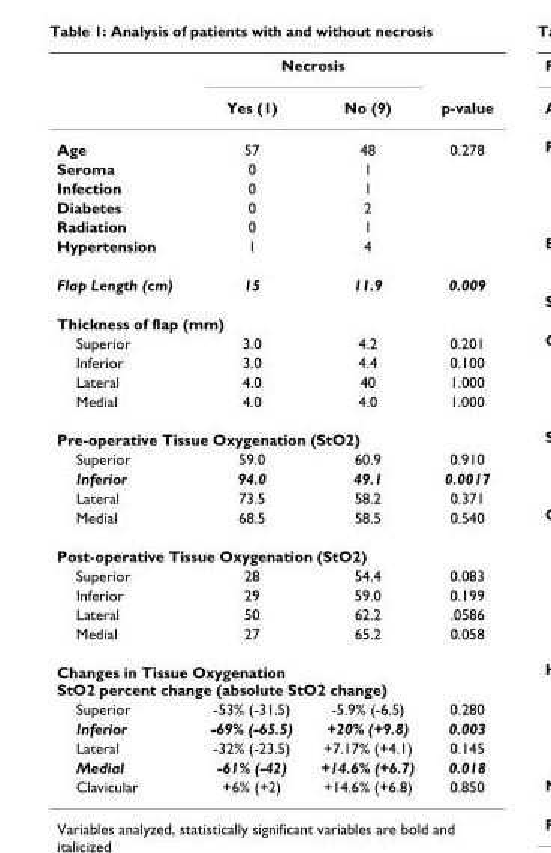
<table><thead><tr><td rowspan="2"></td><td colspan="2">Necrosis</td><td rowspan="2">p-value</td></tr><tr><td>Yes (1)</td><td>No (9)</td></tr></thead><tbody><tr><td>Age</td><td>57</td><td>48</td><td>0.278</td></tr><tr><td>Seroma</td><td>0</td><td>1</td><td></td></tr><tr><td>Infection</td><td>0</td><td>1</td><td></td></tr><tr><td>Diabetes</td><td>0</td><td>2</td><td></td></tr><tr><td>Radiation</td><td>0</td><td>1</td><td></td></tr><tr><td>Hypertension</td><td>1</td><td>4</td><td></td></tr><tr><td>Flap Length (cm)</td><td>15</td><td>11.9</td><td>0.009</td></tr><tr><td colspan="4">Thickness of flap (mm)</td></tr><tr><td>Superior</td><td>3.0</td><td>4.2</td><td>0.201</td></tr><tr><td>Inferior</td><td>3.0</td><td>4.4</td><td>0.100</td></tr><tr><td>Lateral</td><td>4.0</td><td>40</td><td>1.000</td></tr><tr><td>Medial</td><td>4.0</td><td>4.0</td><td>1.000</td></tr><tr><td colspan="4">Pre-operative Tissue Oxygenation (StO2)</td></tr><tr><td>Superior</td><td>59.0</td><td>60.9</td><td>0.910</td></tr><tr><td>Inferior</td><td>94.0</td><td>49.1</td><td>0.0017</td></tr><tr><td>Lateral</td><td>73.5</td><td>58.2</td><td>0.371</td></tr><tr><td>Medial</td><td>68.5</td><td>58.5</td><td>0.540</td></tr><tr><td colspan="4">Post-operative Tissue Oxygenation (StO2)</td></tr><tr><td>Superior</td><td>28</td><td>54.4</td><td>0.083</td></tr><tr><td>Inferior</td><td>29</td><td>59.0</td><td>0.199</td></tr><tr><td>Lateral</td><td>50</td><td>62.2</td><td>.0586</td></tr><tr><td>Medial</td><td>27</td><td>65.2</td><td>0.058</td></tr><tr><td colspan="4">Changes in Tissue Oxygenation StO2 percent change (absolute StO2 change)</td></tr><tr><td>Superior</td><td>-53% (-31.5)</td><td>-5.9% (-6.5)</td><td>0.280</td></tr><tr><td>Inferior</td><td>-69% (-65.5)</td><td>+20% (+9.8)</td><td>0.003</td></tr><tr><td>Lateral</td><td>-32% (-23.5)</td><td>+7.17% (+4.1)</td><td>0.145</td></tr><tr><td>Medial</td><td>-61% (-42)</td><td>+14.6% (+6.7)</td><td>0.018</td></tr><tr><td>Clavicular</td><td>+6% (+2)</td><td>+14.6% (+6.8)</td><td>0.850</td></tr></tbody></table>